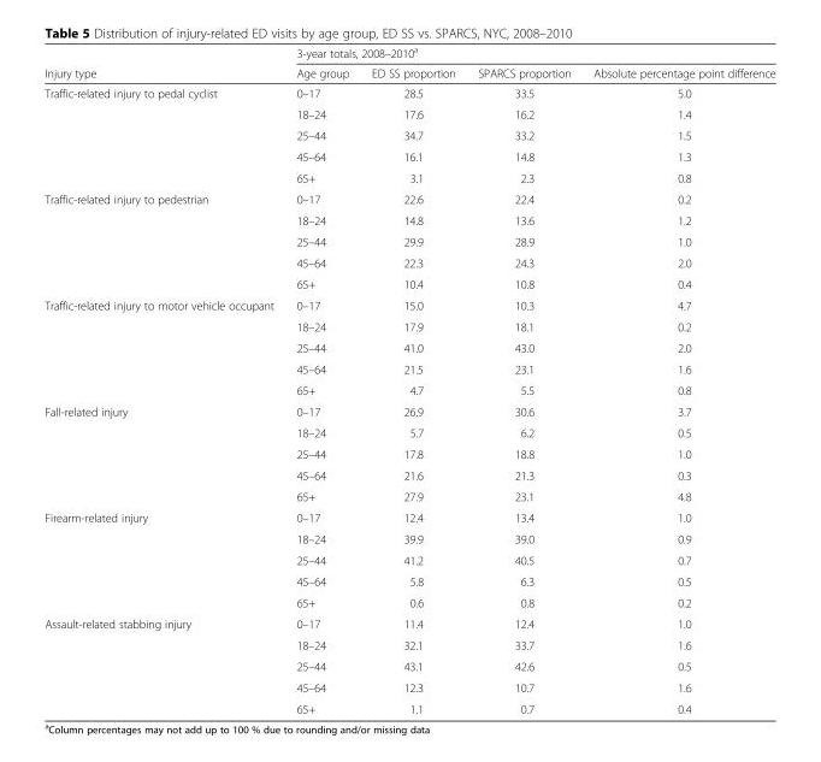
<table><thead><tr><td rowspan="2">Injury type</td><td colspan="4">3-year totals, 2008–2010<sup>a</sup></td></tr><tr><td>Age group</td><td>ED SS proportion</td><td>SPARCS proportion</td><td>Absolute percentage point difference</td></tr></thead><tbody><tr><td rowspan="5">Traffic-related injury to pedal cyclist</td><td>0–17</td><td>28.5</td><td>33.5</td><td>5.0</td></tr><tr><td>18–24</td><td>17.6</td><td>16.2</td><td>1.4</td></tr><tr><td>25–44</td><td>34.7</td><td>33.2</td><td>1.5</td></tr><tr><td>45–64</td><td>16.1</td><td>14.8</td><td>1.3</td></tr><tr><td>65+</td><td>3.1</td><td>2.3</td><td>0.8</td></tr><tr><td rowspan="5">Traffic-related injury to pedestrian</td><td>0–17</td><td>22.6</td><td>22.4</td><td>0.2</td></tr><tr><td>18–24</td><td>14.8</td><td>13.6</td><td>1.2</td></tr><tr><td>25–44</td><td>29.9</td><td>28.9</td><td>1.0</td></tr><tr><td>45–64</td><td>22.3</td><td>24.3</td><td>2.0</td></tr><tr><td>65+</td><td>10.4</td><td>10.8</td><td>0.4</td></tr><tr><td rowspan="5">Traffic-related injury to motor vehicle occupant</td><td>0–17</td><td>15.0</td><td>10.3</td><td>4.7</td></tr><tr><td>18–24</td><td>17.9</td><td>18.1</td><td>0.2</td></tr><tr><td>25–44</td><td>41.0</td><td>43.0</td><td>2.0</td></tr><tr><td>45–64</td><td>21.5</td><td>23.1</td><td>1.6</td></tr><tr><td>65+</td><td>4.7</td><td>5.5</td><td>0.8</td></tr><tr><td rowspan="5">Fall-related injury</td><td>0–17</td><td>26.9</td><td>30.6</td><td>3.7</td></tr><tr><td>18–24</td><td>5.7</td><td>6.2</td><td>0.5</td></tr><tr><td>25–44</td><td>17.8</td><td>18.8</td><td>1.0</td></tr><tr><td>45–64</td><td>21.6</td><td>21.3</td><td>0.3</td></tr><tr><td>65+</td><td>27.9</td><td>23.1</td><td>4.8</td></tr><tr><td rowspan="5">Firearm-related injury</td><td>0–17</td><td>12.4</td><td>13.4</td><td>1.0</td></tr><tr><td>18–24</td><td>39.9</td><td>39.0</td><td>0.9</td></tr><tr><td>25–44</td><td>41.2</td><td>40.5</td><td>0.7</td></tr><tr><td>45–64</td><td>5.8</td><td>6.3</td><td>0.5</td></tr><tr><td>65+</td><td>0.6</td><td>0.8</td><td>0.2</td></tr><tr><td rowspan="5">Assault-related stabbing injury</td><td>0–17</td><td>11.4</td><td>12.4</td><td>1.0</td></tr><tr><td>18–24</td><td>32.1</td><td>33.7</td><td>1.6</td></tr><tr><td>25–44</td><td>43.1</td><td>42.6</td><td>0.5</td></tr><tr><td>45–64</td><td>12.3</td><td>10.7</td><td>1.6</td></tr><tr><td>65+</td><td>1.1</td><td>0.7</td><td>0.4</td></tr></tbody></table>